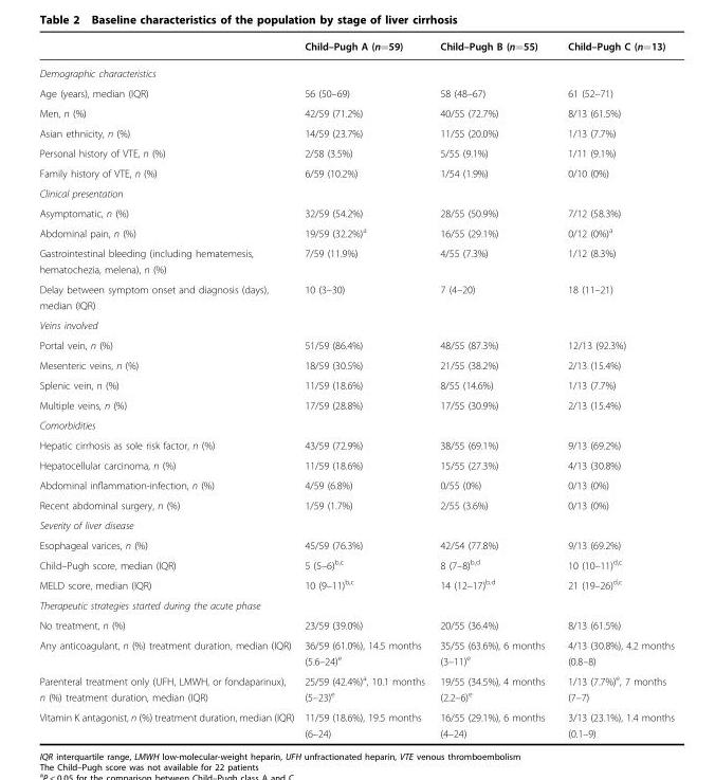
<table><thead><tr><td></td><td>Child–Pugh A (n=59)</td><td>Child–Pugh B (n=55)</td><td>Child–Pugh C (n=13)</td></tr></thead><tbody><tr><td colspan="4">Demographic characteristics</td></tr><tr><td>Age (years), median (IQR)</td><td>56 (50–69)</td><td>58 (48–67)</td><td>61 (52–71)</td></tr><tr><td>Men, n (%)</td><td>42/59 (71.2%)</td><td>40/55 (72.7%)</td><td>8/13 (61.5%)</td></tr><tr><td>Asian ethnicity, n (%)</td><td>14/59 (23.7%)</td><td>11/55 (20.0%)</td><td>1/13 (7.7%)</td></tr><tr><td>Personal history of VTE, n (%)</td><td>2/58 (3.5%)</td><td>5/55 (9.1%)</td><td>1/11 (9.1%)</td></tr><tr><td>Family history of VTE, n (%)</td><td>6/59 (10.2%)</td><td>1/54 (1.9%)</td><td>0/10 (0%)</td></tr><tr><td colspan="4">Clinical presentation</td></tr><tr><td>Asymptomatic, n (%)</td><td>32/59 (54.2%)</td><td>28/55 (50.9%)</td><td>7/12 (58.3%)</td></tr><tr><td>Abdominal pain, n (%)</td><td>19/59 (32.2%)<sup>a</sup></td><td>16/55 (29.1%)</td><td>0/12 (0%)<sup>a</sup></td></tr><tr><td>Gastrointestinal bleeding (including hematemesis, hematochezia, melena), n (%)</td><td>7/59 (11.9%)</td><td>4/55 (7.3%)</td><td>1/12 (8.3%)</td></tr><tr><td>Delay between symptom onset and diagnosis (days), median (IQR)</td><td>10 (3–30)</td><td>7 (4–20)</td><td>18 (11–21)</td></tr><tr><td colspan="4">Veins involved</td></tr><tr><td>Portal vein, n (%)</td><td>51/59 (86.4%)</td><td>48/55 (87.3%)</td><td>12/13 (92.3%)</td></tr><tr><td>Mesenteric veins, n (%)</td><td>18/59 (30.5%)</td><td>21/55 (38.2%)</td><td>2/13 (15.4%)</td></tr><tr><td>Splenic vein, n (%)</td><td>11/59 (18.6%)</td><td>8/55 (14.6%)</td><td>1/13 (7.7%)</td></tr><tr><td>Multiple veins, n (%)</td><td>17/59 (28.8%)</td><td>17/55 (30.9%)</td><td>2/13 (15.4%)</td></tr><tr><td colspan="4">Comorbidities</td></tr><tr><td>Hepatic cirrhosis as sole risk factor, n (%)</td><td>43/59 (72.9%)</td><td>38/55 (69.1%)</td><td>9/13 (69.2%)</td></tr><tr><td>Hepatocellular carcinoma, n (%)</td><td>11/59 (18.6%)</td><td>15/55 (27.3%)</td><td>4/13 (30.8%)</td></tr><tr><td>Abdominal inflammation-infection, n (%)</td><td>4/59 (6.8%)</td><td>0/55 (0%)</td><td>0/13 (0%)</td></tr><tr><td>Recent abdominal surgery, n (%)</td><td>1/59 (1.7%)</td><td>2/55 (3.6%)</td><td>0/13 (0%)</td></tr><tr><td colspan="4">Severity of liver disease</td></tr><tr><td>Esophageal varices, n (%)</td><td>45/59 (76.3%)</td><td>42/54 (77.8%)</td><td>9/13 (69.2%)</td></tr><tr><td>Child–Pugh score, median (IQR)</td><td>5 (5–6)<sup>b,c</sup></td><td>8 (7–8)<sup>b,d</sup></td><td>10 (10–11)<sup>d,c</sup></td></tr><tr><td>MELD score, median (IQR)</td><td>10 (9–11)<sup>b,c</sup></td><td>14 (12–17)<sup>b,d</sup></td><td>21 (19–26)<sup>d,c</sup></td></tr><tr><td colspan="4">Therapeutic strategies started during the acute phase</td></tr><tr><td>No treatment, n (%)</td><td>23/59 (39.0%)</td><td>20/55 (36.4%)</td><td>8/13 (61.5%)</td></tr><tr><td>Any anticoagulant, n (%) treatment duration, median (IQR)</td><td>36/59 (61.0%), 14.5 months (5.6–24)<sup>e</sup></td><td>35/55 (63.6%), 6 months (3–11)<sup>e</sup></td><td>4/13 (30.8%), 4.2 months (0.8–8)</td></tr><tr><td>Parenteral treatment only (UFH, LMWH, or fondaparinux), n (%) treatment duration, median (IQR)</td><td>25/59 (42.4%)<sup>a</sup>, 10.1 months (5–23)<sup>e</sup></td><td>19/55 (34.5%), 4 months (2.2–6)<sup>e</sup></td><td>1/13 (7.7%)<sup>e</sup>, 7 months (7–7)</td></tr><tr><td>Vitamin K antagonist, n (%) treatment duration, median (IQR)</td><td>11/59 (18.6%), 19.5 months (6–24)</td><td>16/55 (29.1%), 6 months (4–24)</td><td>3/13 (23.1%), 1.4 months (0.1–9)</td></tr></tbody></table>